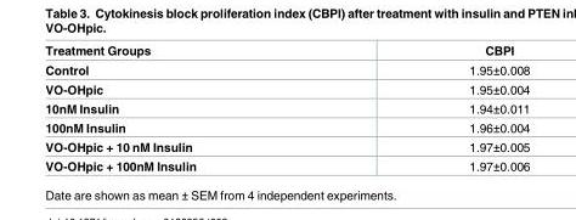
<table><thead><tr><td>Treatment Groups</td><td>CBPI</td></tr></thead><tbody><tr><td>Control</td><td>1.95±0.008</td></tr><tr><td>VO-OHpic</td><td>1.95±0.004</td></tr><tr><td>10nM Insulin</td><td>1.94±0.011</td></tr><tr><td>100nM Insulin</td><td>1.96±0.004</td></tr><tr><td>VO-OHpic + 10 nM Insulin</td><td>1.97±0.005</td></tr><tr><td>VO-OHpic + 100nM Insulin</td><td>1.97±0.006</td></tr></tbody></table>